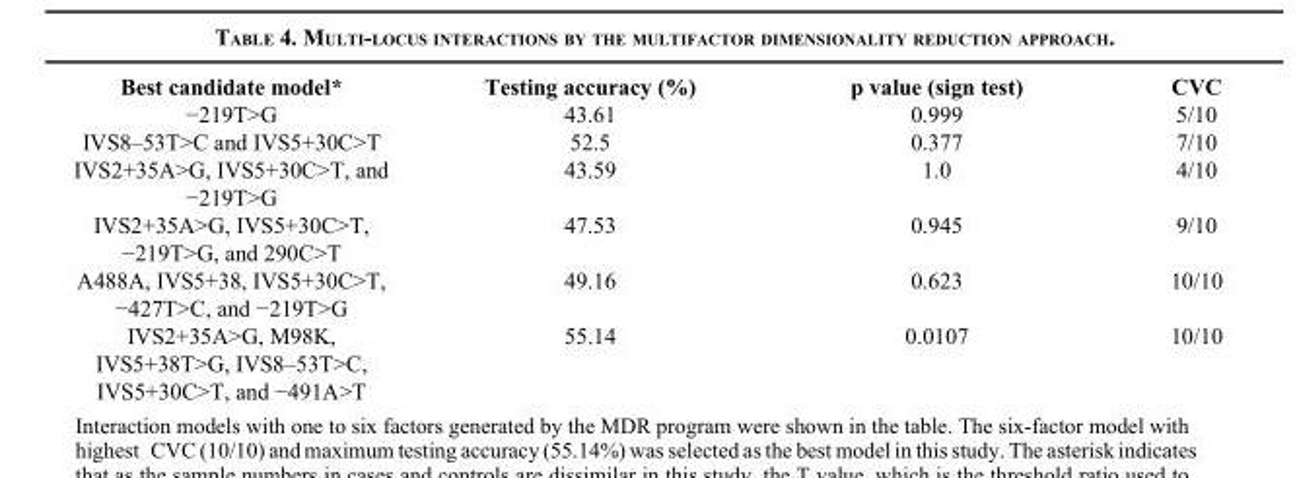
<table><thead><tr><td>Best candidate model*</td><td>Testing accuracy (%)</td><td>p value (sign test)</td><td>CVC</td></tr></thead><tbody><tr><td>−219T&gt;G</td><td>43.61</td><td>0.999</td><td>5/10</td></tr><tr><td>IVS8–53T&gt;C and IVS5+30C&gt;T</td><td>52.5</td><td>0.377</td><td>7/10</td></tr><tr><td>IVS2+35A&gt;G, IVS5+30C&gt;T, and −219T&gt;G</td><td>43.59</td><td>1.0</td><td>4/10</td></tr><tr><td>IVS2+35A&gt;G, IVS5+30C&gt;T, −219T&gt;G, and 290C&gt;T</td><td>47.53</td><td>0.945</td><td>9/10</td></tr><tr><td>A488A, IVS5+38, IVS5+30C&gt;T, −427T&gt;C, and −219T&gt;G</td><td>49.16</td><td>0.623</td><td>10/10</td></tr><tr><td>IVS2+35A&gt;G, M98K, IVS5+38T&gt;G, IVS8–53T&gt;C, IVS5+30C&gt;T, and −491A&gt;T</td><td>55.14</td><td>0.0107</td><td>10/10</td></tr></tbody></table>